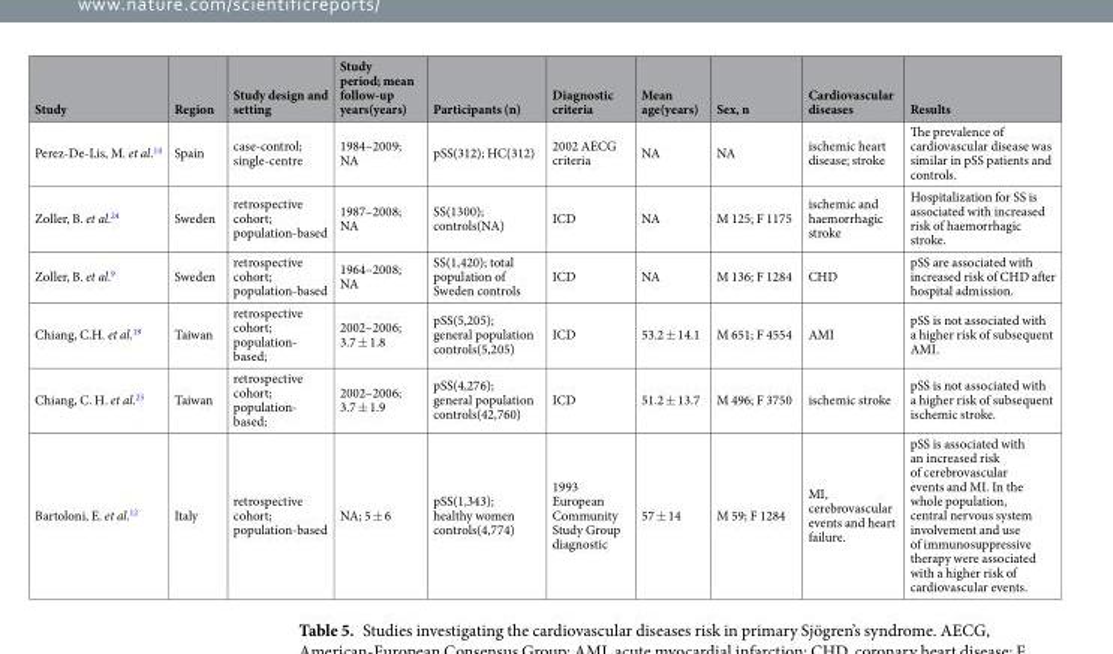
<table><thead><tr><td>Study</td><td>Region</td><td>Study design and setting</td><td>Study period; mean follow-up years(years)</td><td>Participants (n)</td><td>Diagnostic criteria</td><td>Mean age(years)</td><td>Sex, n</td><td>Cardiovascular diseases</td><td>Results</td></tr></thead><tbody><tr><td>Perez-De-Lis, M. et al.<sup>14</sup></td><td>Spain</td><td>case-control; single-centre</td><td>1984–2009; NA</td><td>pSS(312); HC(312)</td><td>2002 AECG criteria</td><td>NA</td><td>NA</td><td>ischemic heart disease; stroke</td><td>The prevalence of cardiovascular disease was similar in pSS patients and controls.</td></tr><tr><td>Zoller, B. et al.<sup>24</sup></td><td>Sweden</td><td>retrospective cohort; population-based</td><td>1987–2008; NA</td><td>SS(1300); controls(NA)</td><td>ICD</td><td>NA</td><td>M 125; F 1175</td><td>ischemic and haemorrhagic stroke</td><td>Hospitalization for SS is associated with increased risk of haemorrhagic stroke.</td></tr><tr><td>Zoller, B. et al.<sup>9</sup></td><td>Sweden</td><td>retrospective cohort; population-based</td><td>1964–2008; NA</td><td>SS(1,420); total population of Sweden controls</td><td>ICD</td><td>NA</td><td>M 136; F 1284</td><td>CHD</td><td>pSS are associated with increased risk of CHD after hospital admission.</td></tr><tr><td>Chiang, C.H. et al.<sup>19</sup></td><td>Taiwan</td><td>retrospective cohort; population- based;</td><td>2002–2006; 3.7 ± 1.8</td><td>pSS(5,205); general population controls(5,205)</td><td>ICD</td><td>53.2 ± 14.1</td><td>M 651; F 4554</td><td>AMI</td><td>pSS is not associated with a higher risk of subsequent AMI.</td></tr><tr><td>Chiang, C. H. et al.<sup>23</sup></td><td>Taiwan</td><td>retrospective cohort; population- based;</td><td>2002–2006; 3.7 ± 1.9</td><td>pSS(4,276); general population controls(42,760)</td><td>ICD</td><td>51.2 ± 13.7</td><td>M 496; F 3750</td><td>ischemic stroke</td><td>pSS is not associated with a higher risk of subsequent ischemic stroke.</td></tr><tr><td>Bartoloni, E. et al.<sup>12</sup></td><td>Italy</td><td>retrospective cohort; population-based</td><td>NA; 5 ± 6</td><td>pSS(1,343); healthy women controls(4,774)</td><td>1993 European Community Study Group diagnostic</td><td>57 ± 14</td><td>M 59; F 1284</td><td>MI, cerebrovascular events and heart failure.</td><td>pSS is associated with an increased risk of cerebrovascular events and MI. In the whole population, central nervous system involvement and use of immunosuppressive therapy were associated with a higher risk of cardiovascular events.</td></tr></tbody></table>